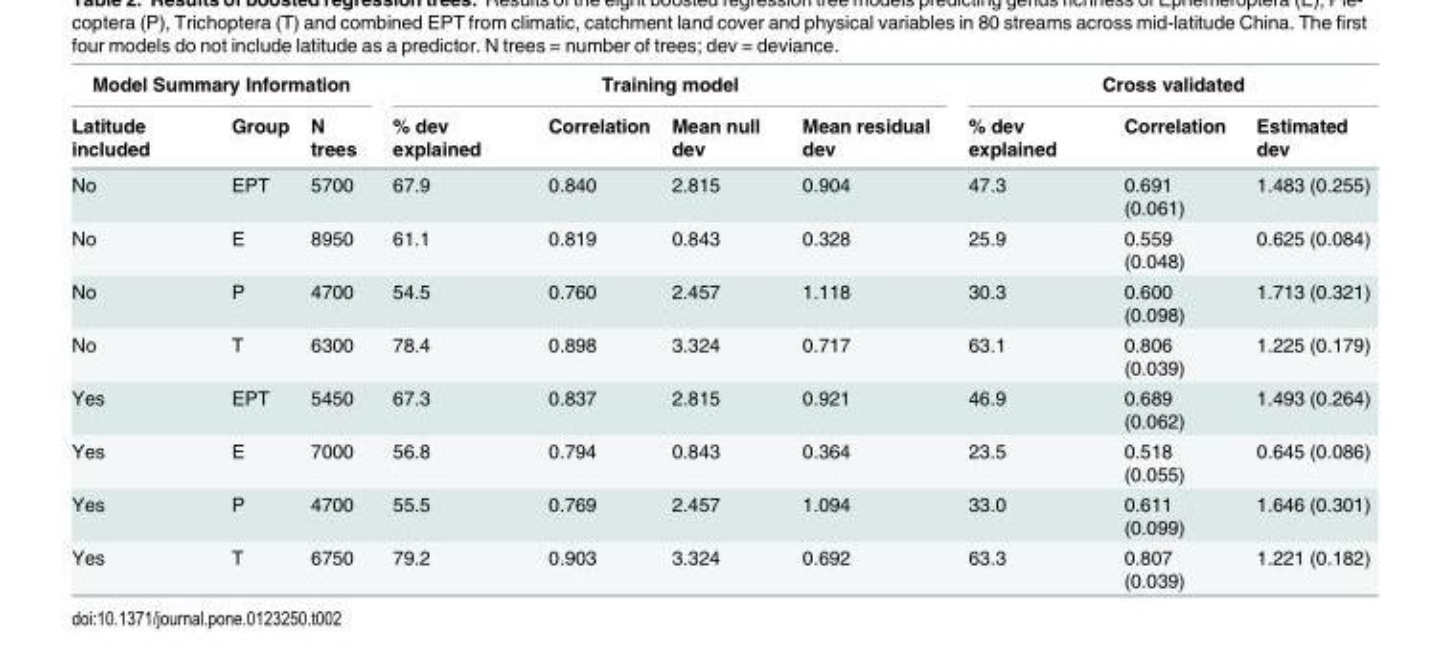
<table><thead><tr><td colspan="3">Model Summary Information</td><td colspan="4">Training model</td><td colspan="3">Cross validated</td></tr><tr><td>Latitude included</td><td>Group</td><td>N trees</td><td>% dev explained</td><td>Correlation</td><td>Mean null dev</td><td>Mean residual dev</td><td>% dev explained</td><td>Correlation</td><td>Estimated dev</td></tr></thead><tbody><tr><td>No</td><td>EPT</td><td>5700</td><td>67.9</td><td>0.840</td><td>2.815</td><td>0.904</td><td>47.3</td><td>0.691 (0.061)</td><td>1.483 (0.255)</td></tr><tr><td>No</td><td>E</td><td>8950</td><td>61.1</td><td>0.819</td><td>0.843</td><td>0.328</td><td>25.9</td><td>0.559 (0.048)</td><td>0.625 (0.084)</td></tr><tr><td>No</td><td>P</td><td>4700</td><td>54.5</td><td>0.760</td><td>2.457</td><td>1.118</td><td>30.3</td><td>0.600 (0.098)</td><td>1.713 (0.321)</td></tr><tr><td>No</td><td>T</td><td>6300</td><td>78.4</td><td>0.898</td><td>3.324</td><td>0.717</td><td>63.1</td><td>0.806 (0.039)</td><td>1.225 (0.179)</td></tr><tr><td>Yes</td><td>EPT</td><td>5450</td><td>67.3</td><td>0.837</td><td>2.815</td><td>0.921</td><td>46.9</td><td>0.689 (0.062)</td><td>1.493 (0.264)</td></tr><tr><td>Yes</td><td>E</td><td>7000</td><td>56.8</td><td>0.794</td><td>0.843</td><td>0.364</td><td>23.5</td><td>0.518 (0.055)</td><td>0.645 (0.086)</td></tr><tr><td>Yes</td><td>P</td><td>4700</td><td>55.5</td><td>0.769</td><td>2.457</td><td>1.094</td><td>33.0</td><td>0.611 (0.099)</td><td>1.646 (0.301)</td></tr><tr><td>Yes</td><td>T</td><td>6750</td><td>79.2</td><td>0.903</td><td>3.324</td><td>0.692</td><td>63.3</td><td>0.807 (0.039)</td><td>1.221 (0.182)</td></tr></tbody></table>